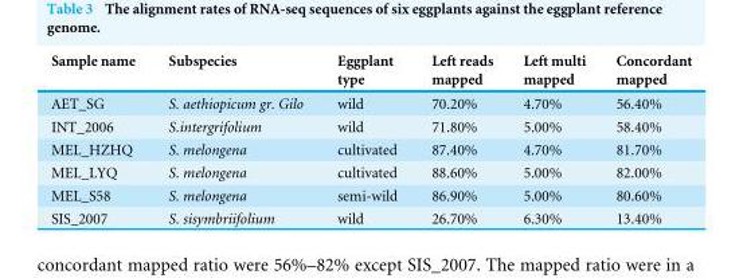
<table><thead><tr><td>Sample name</td><td>Subspecies</td><td>Eggplant type</td><td>Left reads mapped</td><td>Left multi mapped</td><td>Concordant mapped</td></tr></thead><tbody><tr><td>AET_SG</td><td>S. aethiopicum gr. Gilo</td><td>wild</td><td>70.20%</td><td>4.70%</td><td>56.40%</td></tr><tr><td>INT_2006</td><td>S.intergrifolium</td><td>wild</td><td>71.80%</td><td>5.00%</td><td>58.40%</td></tr><tr><td>MEL_HZHQ</td><td>S. melongena</td><td>cultivated</td><td>87.40%</td><td>4.70%</td><td>81.70%</td></tr><tr><td>MEL_LYQ</td><td>S. melongena</td><td>cultivated</td><td>88.60%</td><td>5.00%</td><td>82.00%</td></tr><tr><td>MEL_S58</td><td>S. melongena</td><td>semi-wild</td><td>86.90%</td><td>5.00%</td><td>80.60%</td></tr><tr><td>SIS_2007</td><td>S. sisymbriifolium</td><td>wild</td><td>26.70%</td><td>6.30%</td><td>13.40%</td></tr></tbody></table>